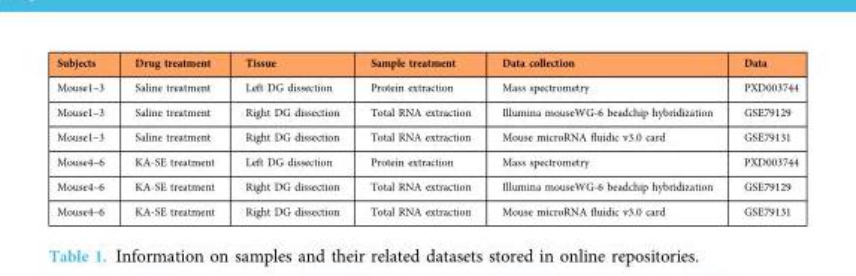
<table><thead><tr><td>Subjects</td><td>Drug treatment</td><td>Tissue</td><td>Sample treatment</td><td>Data collection</td><td>Data</td></tr></thead><tbody><tr><td>Mouse1–3</td><td>Saline treatment</td><td>Left DG dissection</td><td>Protein extraction</td><td>Mass spectrometry</td><td>PXD003744</td></tr><tr><td>Mouse1–3</td><td>Saline treatment</td><td>Right DG dissection</td><td>Total RNA extraction</td><td>Illumina mouseWG-6 beadchip hybridization</td><td>GSE79129</td></tr><tr><td>Mouse1–3</td><td>Saline treatment</td><td>Right DG dissection</td><td>Total RNA extraction</td><td>Mouse microRNA fluidic v3.0 card</td><td>GSE79131</td></tr><tr><td>Mouse4–6</td><td>KA-SE treatment</td><td>Left DG dissection</td><td>Protein extraction</td><td>Mass spectrometry</td><td>PXD003744</td></tr><tr><td>Mouse4–6</td><td>KA-SE treatment</td><td>Right DG dissection</td><td>Total RNA extraction</td><td>Illumina mouseWG-6 beadchip hybridization</td><td>GSE79129</td></tr><tr><td>Mouse4–6</td><td>KA-SE treatment</td><td>Right DG dissection</td><td>Total RNA extraction</td><td>Mouse microRNA fluidic v3.0 card</td><td>GSE79131</td></tr></tbody></table>